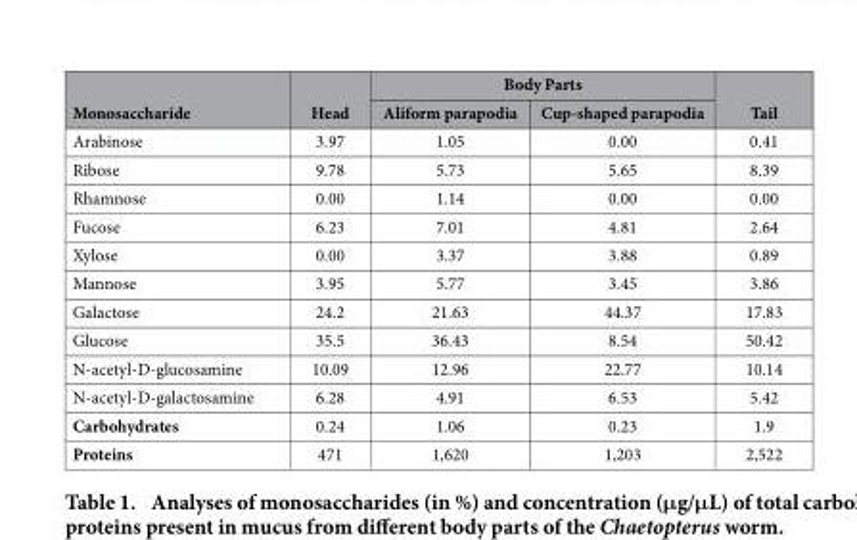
<table><thead><tr><td rowspan="2">Monosaccharide</td><td rowspan="2">Head</td><td colspan="2">Body Parts</td><td rowspan="2">Tail</td></tr><tr><td>Aliform parapodia</td><td>Cup-shaped parapodia</td></tr></thead><tbody><tr><td>Arabinose</td><td>3.97</td><td>1.05</td><td>0.00</td><td>0.41</td></tr><tr><td>Ribose</td><td>9.78</td><td>5.73</td><td>5.65</td><td>8.39</td></tr><tr><td>Rhamnose</td><td>0.00</td><td>1.14</td><td>0.00</td><td>0.00</td></tr><tr><td>Fucose</td><td>6.23</td><td>7.01</td><td>4.81</td><td>2.64</td></tr><tr><td>Xylose</td><td>0.00</td><td>3.37</td><td>3.88</td><td>0.89</td></tr><tr><td>Mannose</td><td>3.95</td><td>5.77</td><td>3.45</td><td>3.86</td></tr><tr><td>Galactose</td><td>24.2</td><td>21.63</td><td>44.37</td><td>17.83</td></tr><tr><td>Glucose</td><td>35.5</td><td>36.43</td><td>8.54</td><td>50.42</td></tr><tr><td>N-acetyl-D-glucosamine</td><td>10.09</td><td>12.96</td><td>22.77</td><td>10.14</td></tr><tr><td>N-acetyl-D-galactosamine</td><td>6.28</td><td>4.91</td><td>6.53</td><td>5.42</td></tr><tr><td>Carbohydrates</td><td>0.24</td><td>1.06</td><td>0.23</td><td>1.9</td></tr><tr><td>Proteins</td><td>471</td><td>1,620</td><td>1,203</td><td>2,522</td></tr></tbody></table>